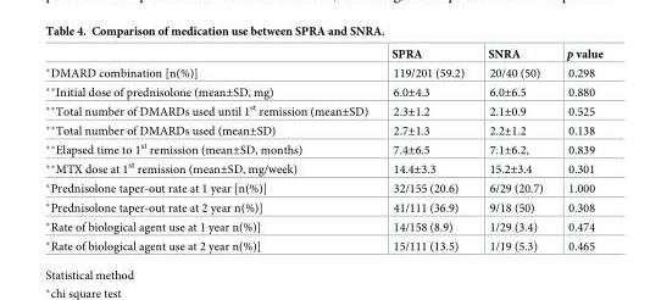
<table><thead><tr><td></td><td>SPRA</td><td>SNRA</td><td>p value</td></tr></thead><tbody><tr><td>*DMARD combination [n(%)]</td><td>119/201 (59.2)</td><td>20/40 (50)</td><td>0.298</td></tr><tr><td>**Initial dose of prednisolone (mean±SD, mg)</td><td>6.0±4.3</td><td>6.0±6.5</td><td>0.880</td></tr><tr><td>**Total number of DMARDs used until 1<sup>st</sup> remission (mean±SD)</td><td>2.3±1.2</td><td>2.1±0.9</td><td>0.525</td></tr><tr><td>**Total number of DMARDs used (mean±SD)</td><td>2.7±1.3</td><td>2.2±1.2</td><td>0.138</td></tr><tr><td>**Elapsed time to 1<sup>st</sup> remission (mean±SD, months)</td><td>7.4±6.5</td><td>7.1±6.2,</td><td>0.839</td></tr><tr><td>**MTX dose at 1<sup>st</sup> remission (mean±SD, mg/week)</td><td>14.4±3.3</td><td>15.2±3.4</td><td>0.301</td></tr><tr><td>*Prednisolone taper-out rate at 1 year [n(%)]</td><td>32/155 (20.6)</td><td>6/29 (20.7)</td><td>1.000</td></tr><tr><td>*Prednisolone taper-out rate at 2 year n(%)]</td><td>41/111 (36.9)</td><td>9/18 (50)</td><td>0.308</td></tr><tr><td>*Rate of biological agent use at 1 year n(%)]</td><td>14/158 (8.9)</td><td>1/29 (3.4)</td><td>0.474</td></tr><tr><td>*Rate of biological agent use at 2 year n(%)]</td><td>15/111 (13.5)</td><td>1/19 (5.3)</td><td>0.465</td></tr></tbody></table>